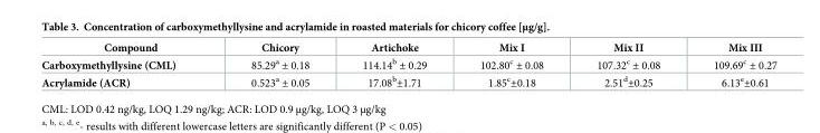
<table><thead><tr><td>Compound</td><td>Chicory</td><td>Artichoke</td><td>Mix I</td><td>Mix II</td><td>Mix III</td></tr></thead><tbody><tr><td>Carboxymethyllysine (CML)</td><td>85.29<sup>a</sup> ± 0.18</td><td>114.14<sup>b</sup> ± 0.29</td><td>102.80<sup>c</sup> ± 0.08</td><td>107.32<sup>c</sup> ± 0.08</td><td>109.69<sup>c</sup> ± 0.27</td></tr><tr><td>Acrylamide (ACR)</td><td>0.523<sup>a</sup> ± 0.05</td><td>17.08<sup>b</sup>±1.71</td><td>1.85<sup>c</sup>±0.18</td><td>2.51<sup>d</sup>±0.25</td><td>6.13<sup>e</sup>±0.61</td></tr></tbody></table>